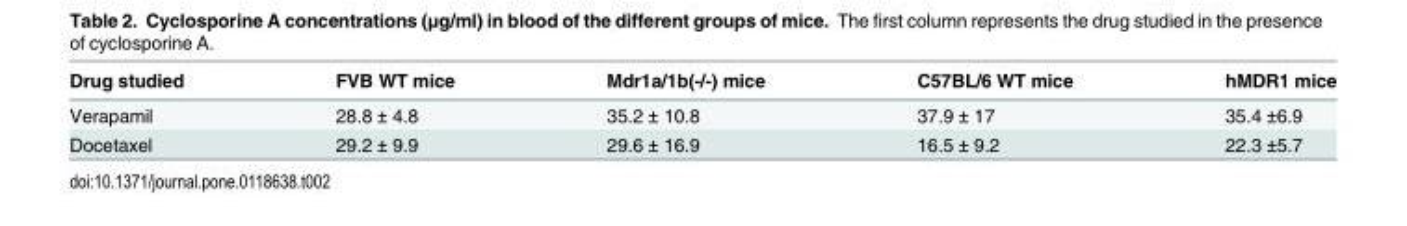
<table><thead><tr><td>Drug studied</td><td>FVB WT mice</td><td>Mdr1a/1b(-/-) mice</td><td>C57BL/6 WT mice</td><td>hMDR1 mice</td></tr></thead><tbody><tr><td>Verapamil</td><td>28.8 ± 4.8</td><td>35.2 ± 10.8</td><td>37.9 ± 17</td><td>35.4 ±6.9</td></tr><tr><td>Docetaxel</td><td>29.2 ± 9.9</td><td>29.6 ± 16.9</td><td>16.5 ± 9.2</td><td>22.3 ±5.7</td></tr></tbody></table>